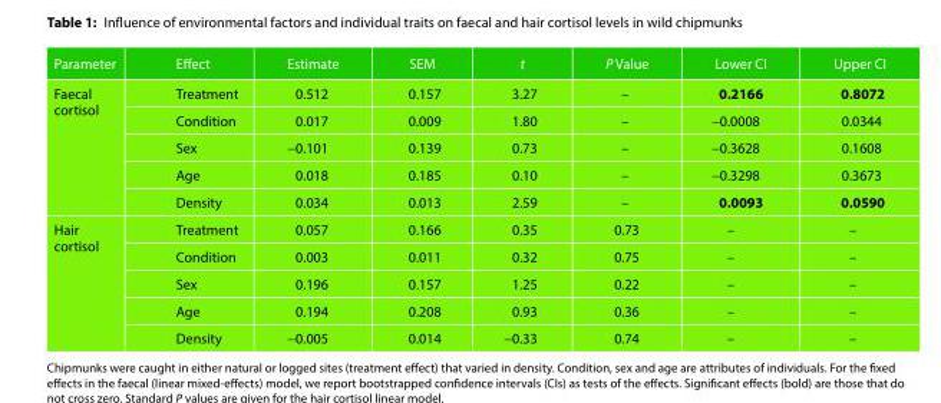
<table><thead><tr><td>Parameter</td><td>Effect</td><td>Estimate</td><td>SEM</td><td>t</td><td>P Value</td><td>Lower CI</td><td>Upper CI</td></tr></thead><tbody><tr><td rowspan="5">Faecal cortisol</td><td>Treatment</td><td>0.512</td><td>0.157</td><td>3.27</td><td>–</td><td>0.2166</td><td>0.8072</td></tr><tr><td>Condition</td><td>0.017</td><td>0.009</td><td>1.80</td><td>–</td><td>−0.0008</td><td>0.0344</td></tr><tr><td>Sex</td><td>−0.101</td><td>0.139</td><td>0.73</td><td>–</td><td>−0.3628</td><td>0.1608</td></tr><tr><td>Age</td><td>0.018</td><td>0.185</td><td>0.10</td><td>–</td><td>−0.3298</td><td>0.3673</td></tr><tr><td>Density</td><td>0.034</td><td>0.013</td><td>2.59</td><td>–</td><td>0.0093</td><td>0.0590</td></tr><tr><td rowspan="5">Hair cortisol</td><td>Treatment</td><td>0.057</td><td>0.166</td><td>0.35</td><td>0.73</td><td>–</td><td>–</td></tr><tr><td>Condition</td><td>0.003</td><td>0.011</td><td>0.32</td><td>0.75</td><td>–</td><td>–</td></tr><tr><td>Sex</td><td>0.196</td><td>0.157</td><td>1.25</td><td>0.22</td><td>–</td><td>–</td></tr><tr><td>Age</td><td>0.194</td><td>0.208</td><td>0.93</td><td>0.36</td><td>–</td><td>–</td></tr><tr><td>Density</td><td>−0.005</td><td>0.014</td><td>−0.33</td><td>0.74</td><td>–</td><td>–</td></tr></tbody></table>